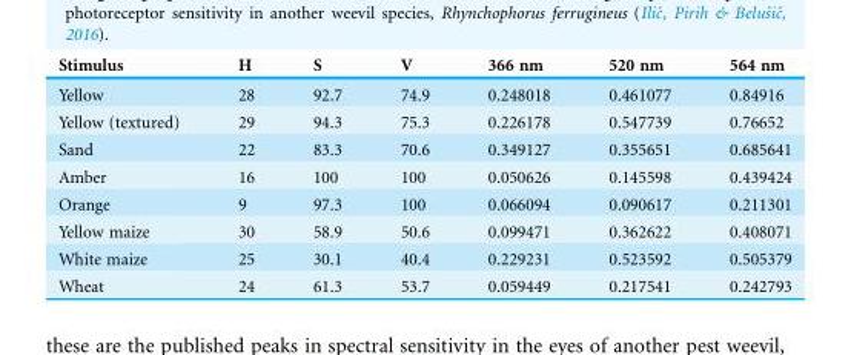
<table><thead><tr><td>Stimulus</td><td>H</td><td>S</td><td>V</td><td>366 nm</td><td>520 nm</td><td>564 nm</td></tr></thead><tbody><tr><td>Yellow</td><td>28</td><td>92.7</td><td>74.9</td><td>0.248018</td><td>0.461077</td><td>0.84916</td></tr><tr><td>Yellow (textured)</td><td>29</td><td>94.3</td><td>75.3</td><td>0.226178</td><td>0.547739</td><td>0.76652</td></tr><tr><td>Sand</td><td>22</td><td>83.3</td><td>70.6</td><td>0.349127</td><td>0.355651</td><td>0.685641</td></tr><tr><td>Amber</td><td>16</td><td>100</td><td>100</td><td>0.050626</td><td>0.145598</td><td>0.439424</td></tr><tr><td>Orange</td><td>9</td><td>97.3</td><td>100</td><td>0.066094</td><td>0.090617</td><td>0.211301</td></tr><tr><td>Yellow maize</td><td>30</td><td>58.9</td><td>50.6</td><td>0.099471</td><td>0.362622</td><td>0.408071</td></tr><tr><td>White maize</td><td>25</td><td>30.1</td><td>40.4</td><td>0.229231</td><td>0.523592</td><td>0.505379</td></tr><tr><td>Wheat</td><td>24</td><td>61.3</td><td>53.7</td><td>0.059449</td><td>0.217541</td><td>0.242793</td></tr></tbody></table>